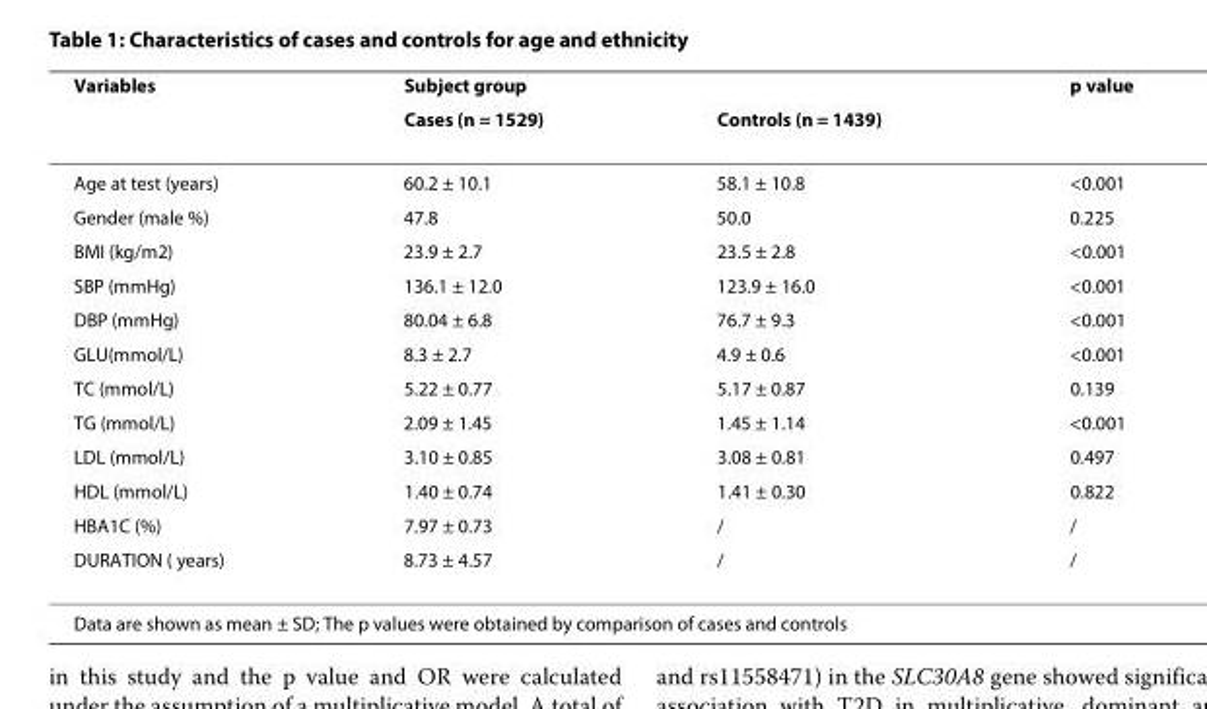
<table><thead><tr><td rowspan="2">Variables</td><td colspan="2">Subject group</td><td rowspan="2">p value</td></tr><tr><td>Cases (n = 1529)</td><td>Controls (n = 1439)</td></tr></thead><tbody><tr><td>Age at test (years)</td><td>60.2 ± 10.1</td><td>58.1 ± 10.8</td><td>&lt;0.001</td></tr><tr><td>Gender (male %)</td><td>47.8</td><td>50.0</td><td>0.225</td></tr><tr><td>BMI (kg/m2)</td><td>23.9 ± 2.7</td><td>23.5 ± 2.8</td><td>&lt;0.001</td></tr><tr><td>SBP (mmHg)</td><td>136.1 ± 12.0</td><td>123.9 ± 16.0</td><td>&lt;0.001</td></tr><tr><td>DBP (mmHg)</td><td>80.04 ± 6.8</td><td>76.7 ± 9.3</td><td>&lt;0.001</td></tr><tr><td>GLU(mmol/L)</td><td>8.3 ± 2.7</td><td>4.9 ± 0.6</td><td>&lt;0.001</td></tr><tr><td>TC (mmol/L)</td><td>5.22 ± 0.77</td><td>5.17 ± 0.87</td><td>0.139</td></tr><tr><td>TG (mmol/L)</td><td>2.09 ± 1.45</td><td>1.45 ± 1.14</td><td>&lt;0.001</td></tr><tr><td>LDL (mmol/L)</td><td>3.10 ± 0.85</td><td>3.08 ± 0.81</td><td>0.497</td></tr><tr><td>HDL (mmol/L)</td><td>1.40 ± 0.74</td><td>1.41 ± 0.30</td><td>0.822</td></tr><tr><td>HBA1C (%)</td><td>7.97 ± 0.73</td><td>/</td><td>/</td></tr><tr><td>DURATION ( years)</td><td>8.73 ± 4.57</td><td>/</td><td>/</td></tr><tr><td colspan="4">Data are shown as mean ± SD; The p values were obtained by comparison of cases and controls</td></tr></tbody></table>